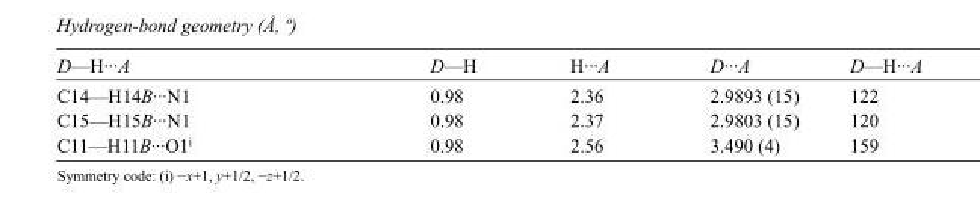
<table><tbody><tr><td>D—H···A</td><td>D—H</td><td>H···A</td><td>D···A</td><td>D—H···A</td></tr><tr><td>C14—H14B···N1</td><td>0.98</td><td>2.36</td><td>2.9893 (15)</td><td>122</td></tr><tr><td>C15—H15B···N1</td><td>0.98</td><td>2.37</td><td>2.9803 (15)</td><td>120</td></tr><tr><td>C11—H11B···O1<sup>i</sup></td><td>0.98</td><td>2.56</td><td>3.490 (4)</td><td>159</td></tr></tbody></table>